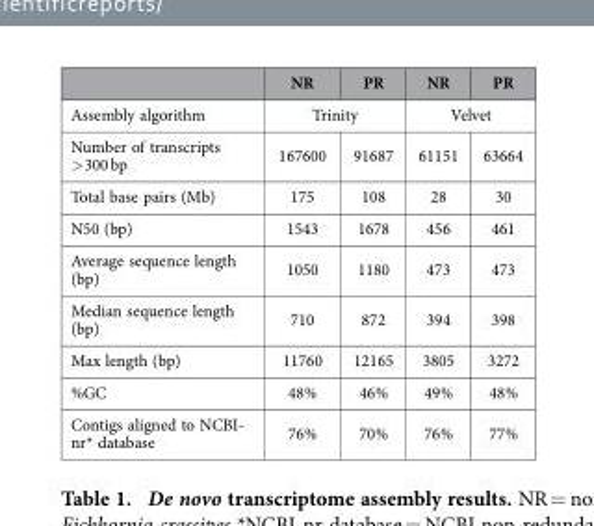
<table><thead><tr><td></td><td>NR</td><td>PR</td><td>NR</td><td>PR</td></tr></thead><tbody><tr><td>Assembly algorithm</td><td colspan="2">Trinity</td><td colspan="2">Velvet</td></tr><tr><td>Number of transcripts &gt; 300 bp</td><td>167600</td><td>91687</td><td>61151</td><td>63664</td></tr><tr><td>Total base pairs (Mb)</td><td>175</td><td>108</td><td>28</td><td>30</td></tr><tr><td>N50 (bp)</td><td>1543</td><td>1678</td><td>456</td><td>461</td></tr><tr><td>Average sequence length (bp)</td><td>1050</td><td>1180</td><td>473</td><td>473</td></tr><tr><td>Median sequence length (bp)</td><td>710</td><td>872</td><td>394</td><td>398</td></tr><tr><td>Max length (bp)</td><td>11760</td><td>12165</td><td>3805</td><td>3272</td></tr><tr><td>%GC</td><td>48%</td><td>46%</td><td>49%</td><td>48%</td></tr><tr><td>Contigs aligned to NCBI- nr* database</td><td>76%</td><td>70%</td><td>76%</td><td>77%</td></tr></tbody></table>